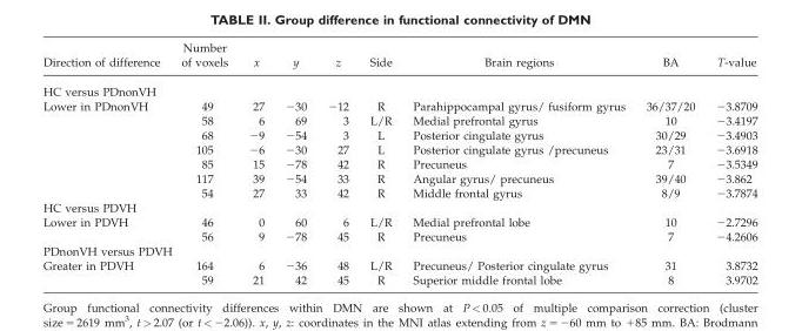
<table><thead><tr><td>Direction of difference</td><td>Number of voxels</td><td>x</td><td>y</td><td>z</td><td>Side</td><td>Brain regions</td><td>BA</td><td>T-value</td></tr></thead><tbody><tr><td colspan="9">HC versus PDnonVH</td></tr><tr><td rowspan="7">Lower in PDnonVH</td><td>49</td><td>27</td><td>−30</td><td>−12</td><td>R</td><td>Parahippocampal gyrus/ fusiform gyrus</td><td>36/37/20</td><td>−3.8709</td></tr><tr><td>58</td><td>6</td><td>69</td><td>3</td><td>L/R</td><td>Medial prefrontal gyrus</td><td>10</td><td>−3.4197</td></tr><tr><td>68</td><td>−9</td><td>−54</td><td>3</td><td>L</td><td>Posterior cingulate gyrus</td><td>30/29</td><td>−3.4903</td></tr><tr><td>105</td><td>−6</td><td>−30</td><td>27</td><td>L</td><td>Posterior cingulate gyrus /precuneus</td><td>23/31</td><td>−3.6918</td></tr><tr><td>85</td><td>15</td><td>−78</td><td>42</td><td>R</td><td>Precuneus</td><td>7</td><td>−3.5349</td></tr><tr><td>117</td><td>39</td><td>−54</td><td>33</td><td>R</td><td>Angular gyrus/ precuneus</td><td>39/40</td><td>−3.862</td></tr><tr><td>54</td><td>27</td><td>33</td><td>42</td><td>R</td><td>Middle frontal gyrus</td><td>8/9</td><td>−3.7874</td></tr><tr><td colspan="9">HC versus PDVH</td></tr><tr><td rowspan="2">Lower in PDVH</td><td>46</td><td>0</td><td>60</td><td>6</td><td>L/R</td><td>Medial prefrontal lobe</td><td>10</td><td>−2.7296</td></tr><tr><td>56</td><td>9</td><td>−78</td><td>45</td><td>R</td><td>Precuneus</td><td>7</td><td>−4.2606</td></tr><tr><td colspan="9">PDnonVH versus PDVH</td></tr><tr><td rowspan="2">Greater in PDVH</td><td>164</td><td>6</td><td>−36</td><td>48</td><td>L/R</td><td>Precuneus/ Posterior cingulate gyrus</td><td>31</td><td>3.8732</td></tr><tr><td>59</td><td>21</td><td>42</td><td>45</td><td>R</td><td>Superior middle frontal lobe</td><td>8</td><td>3.9702</td></tr></tbody></table>